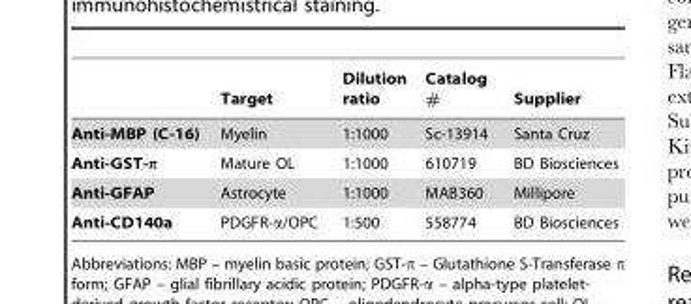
<table><thead><tr><td></td><td>Target</td><td>Dilution ratio</td><td>Catalog #</td><td>Supplier</td></tr></thead><tbody><tr><td>Anti-MBP (C-16)</td><td>Myelin</td><td>1:1000</td><td>Sc-13914</td><td>Santa Cruz</td></tr><tr><td>Anti-GST-π</td><td>Mature OL</td><td>1:1000</td><td>610719</td><td>BD Biosciences</td></tr><tr><td>Anti-GFAP</td><td>Astrocyte</td><td>1:1000</td><td>MAB360</td><td>Millipore</td></tr><tr><td>Anti-CD140a</td><td>PDGFR-α/OPC</td><td>1:500</td><td>558774</td><td>BD Biosciences</td></tr></tbody></table>